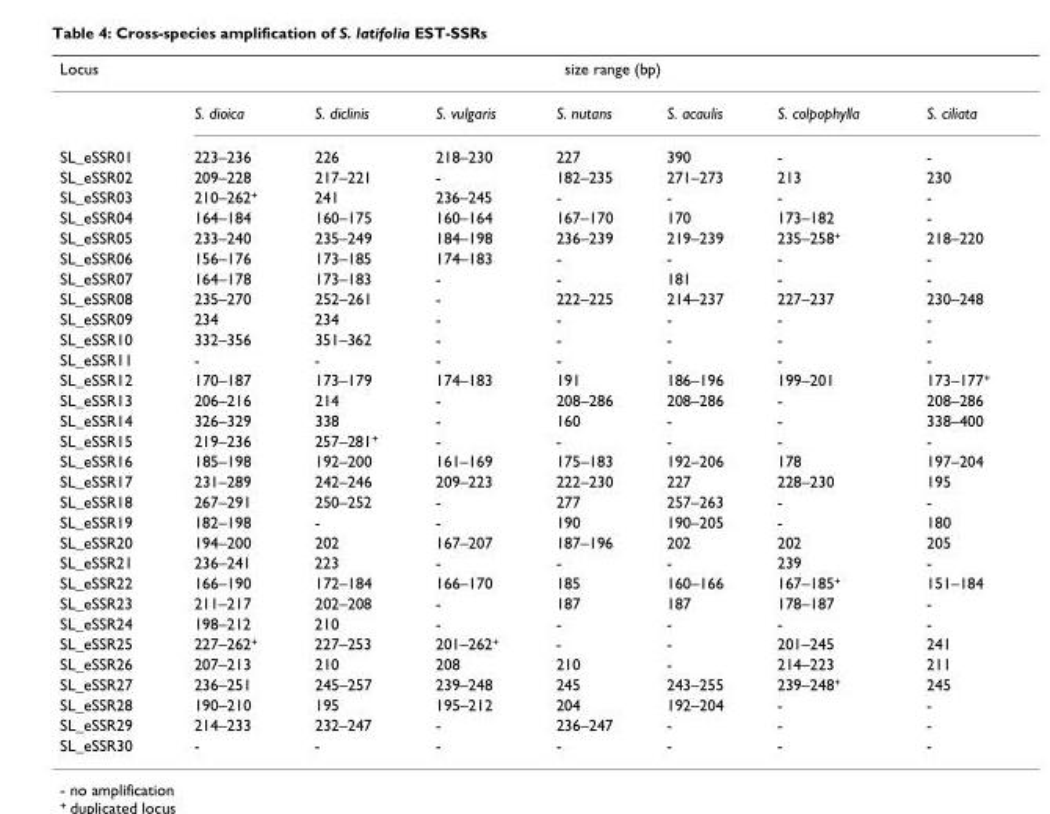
<table><thead><tr><td rowspan="2">Locus</td><td colspan="7">size range (bp)</td></tr><tr><td>S. dioica</td><td>S. diclinis</td><td>S. vulgaris</td><td>S. nutans</td><td>S. acaulis</td><td>S. colpophylla</td><td>S. ciliata</td></tr></thead><tbody><tr><td>SL_eSSR01</td><td>223–236</td><td>226</td><td>218–230</td><td>227</td><td>390</td><td>-</td><td>-</td></tr><tr><td>SL_eSSR02</td><td>209–228</td><td>217–221</td><td>-</td><td>182–235</td><td>271–273</td><td>213</td><td>230</td></tr><tr><td>SL_eSSR03</td><td>210–262<sup>+</sup></td><td>241</td><td>236–245</td><td>-</td><td>-</td><td>-</td><td>-</td></tr><tr><td>SL_eSSR04</td><td>164–184</td><td>160–175</td><td>160–164</td><td>167–170</td><td>170</td><td>173–182</td><td>-</td></tr><tr><td>SL_eSSR05</td><td>233–240</td><td>235–249</td><td>184–198</td><td>236–239</td><td>219–239</td><td>235–258<sup>+</sup></td><td>218–220</td></tr><tr><td>SL_eSSR06</td><td>156–176</td><td>173–185</td><td>174–183</td><td>-</td><td>-</td><td>-</td><td>-</td></tr><tr><td>SL_eSSR07</td><td>164–178</td><td>173–183</td><td>-</td><td>-</td><td>181</td><td>-</td><td>-</td></tr><tr><td>SL_eSSR08</td><td>235–270</td><td>252–261</td><td>-</td><td>222–225</td><td>214–237</td><td>227–237</td><td>230–248</td></tr><tr><td>SL_eSSR09</td><td>234</td><td>234</td><td>-</td><td>-</td><td>-</td><td>-</td><td>-</td></tr><tr><td>SL_eSSR10</td><td>332–356</td><td>351–362</td><td>-</td><td>-</td><td>-</td><td>-</td><td>-</td></tr><tr><td>SL_eSSR11</td><td>-</td><td>-</td><td>-</td><td>-</td><td>-</td><td>-</td><td>-</td></tr><tr><td>SL_eSSR12</td><td>170–187</td><td>173–179</td><td>174–183</td><td>191</td><td>186–196</td><td>199–201</td><td>173–177<sup>+</sup></td></tr><tr><td>SL_eSSR13</td><td>206–216</td><td>214</td><td>-</td><td>208–286</td><td>208–286</td><td>-</td><td>208–286</td></tr><tr><td>SL_eSSR14</td><td>326–329</td><td>338</td><td>-</td><td>160</td><td>-</td><td>-</td><td>338–400</td></tr><tr><td>SL_eSSR15</td><td>219–236</td><td>257–281<sup>+</sup></td><td>-</td><td>-</td><td>-</td><td>-</td><td>-</td></tr><tr><td>SL_eSSR16</td><td>185–198</td><td>192–200</td><td>161–169</td><td>175–183</td><td>192–206</td><td>178</td><td>197–204</td></tr><tr><td>SL_eSSR17</td><td>231–289</td><td>242–246</td><td>209–223</td><td>222–230</td><td>227</td><td>228–230</td><td>195</td></tr><tr><td>SL_eSSR18</td><td>267–291</td><td>250–252</td><td>-</td><td>277</td><td>257–263</td><td>-</td><td>-</td></tr><tr><td>SL_eSSR19</td><td>182–198</td><td>-</td><td>-</td><td>190</td><td>190–205</td><td>-</td><td>180</td></tr><tr><td>SL_eSSR20</td><td>194–200</td><td>202</td><td>167–207</td><td>187–196</td><td>202</td><td>202</td><td>205</td></tr><tr><td>SL_eSSR21</td><td>236–241</td><td>223</td><td>-</td><td>-</td><td>-</td><td>239</td><td>-</td></tr><tr><td>SL_eSSR22</td><td>166–190</td><td>172–184</td><td>166–170</td><td>185</td><td>160–166</td><td>167–185<sup>+</sup></td><td>151–184</td></tr><tr><td>SL_eSSR23</td><td>211–217</td><td>202–208</td><td>-</td><td>187</td><td>187</td><td>178–187</td><td>-</td></tr><tr><td>SL_eSSR24</td><td>198–212</td><td>210</td><td>-</td><td>-</td><td>-</td><td>-</td><td>-</td></tr><tr><td>SL_eSSR25</td><td>227–262<sup>+</sup></td><td>227–253</td><td>201–262<sup>+</sup></td><td>-</td><td>-</td><td>201–245</td><td>241</td></tr><tr><td>SL_eSSR26</td><td>207–213</td><td>210</td><td>208</td><td>210</td><td>-</td><td>214–223</td><td>211</td></tr><tr><td>SL_eSSR27</td><td>236–251</td><td>245–257</td><td>239–248</td><td>245</td><td>243–255</td><td>239–248<sup>+</sup></td><td>245</td></tr><tr><td>SL_eSSR28</td><td>190–210</td><td>195</td><td>195–212</td><td>204</td><td>192–204</td><td>-</td><td>-</td></tr><tr><td>SL_eSSR29</td><td>214–233</td><td>232–247</td><td>-</td><td>236–247</td><td>-</td><td>-</td><td>-</td></tr><tr><td>SL_eSSR30</td><td>-</td><td>-</td><td>-</td><td>-</td><td>-</td><td>-</td><td>-</td></tr></tbody></table>